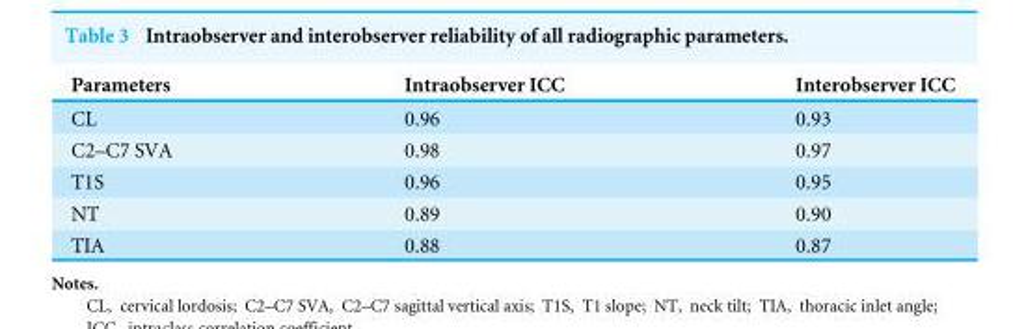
<table><thead><tr><td>Parameters</td><td>Intraobserver ICC</td><td>Interobserver ICC</td></tr></thead><tbody><tr><td>CL</td><td>0.96</td><td>0.93</td></tr><tr><td>C2–C7 SVA</td><td>0.98</td><td>0.97</td></tr><tr><td>T1S</td><td>0.96</td><td>0.95</td></tr><tr><td>NT</td><td>0.89</td><td>0.90</td></tr><tr><td>TIA</td><td>0.88</td><td>0.87</td></tr></tbody></table>